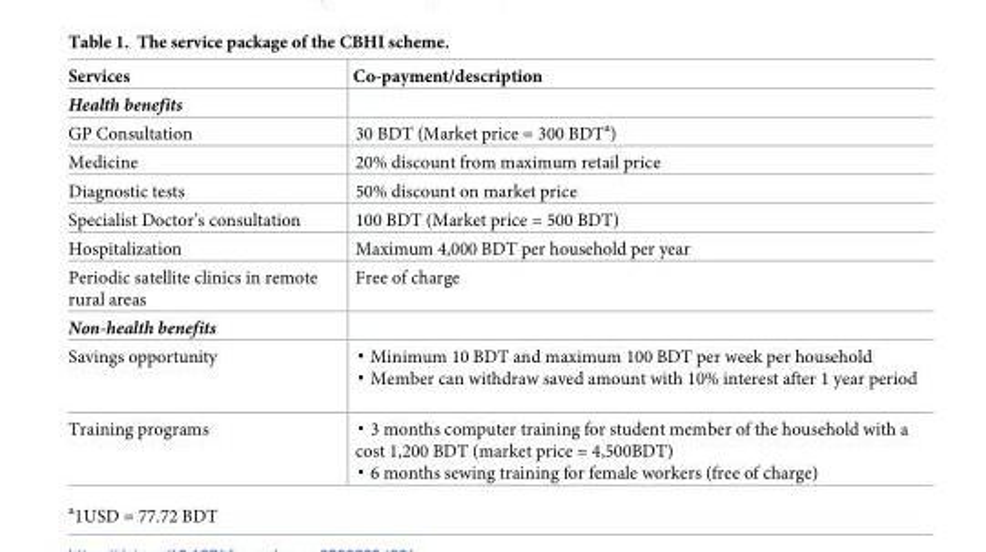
<table><thead><tr><td>Services</td><td>Co-payment/description</td></tr></thead><tbody><tr><td colspan="2">Health benefits</td></tr><tr><td>GP Consultation</td><td>30 BDT (Market price = 300 BDT<sup>a</sup>)</td></tr><tr><td>Medicine</td><td>20% discount from maximum retail price</td></tr><tr><td>Diagnostic tests</td><td>50% discount on market price</td></tr><tr><td>Specialist Doctor’s consultation</td><td>100 BDT (Market price = 500 BDT)</td></tr><tr><td>Hospitalization</td><td>Maximum 4,000 BDT per household per year</td></tr><tr><td>Periodic satellite clinics in remote rural areas</td><td>Free of charge</td></tr><tr><td colspan="2">Non-health benefits</td></tr><tr><td>Savings opportunity</td><td>▪ Minimum 10 BDT and maximum 100 BDT per week per household ▪ Member can withdraw saved amount with 10% interest after 1 year period</td></tr><tr><td>Training programs</td><td>▪ 3 months computer training for student member of the household with a cost 1,200 BDT (market price = 4,500BDT) ▪ 6 months sewing training for female workers (free of charge)</td></tr></tbody></table>